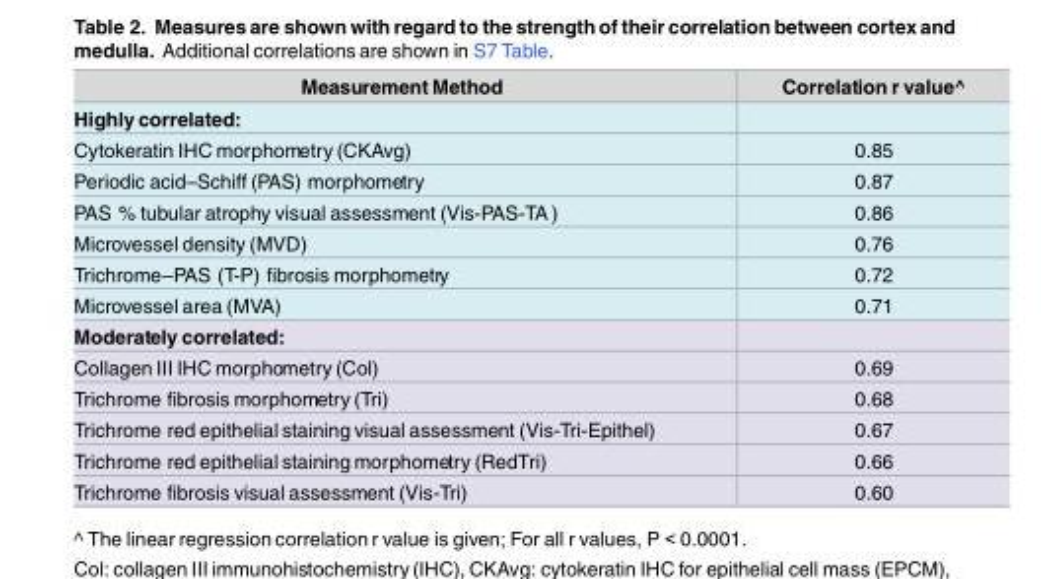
<table><thead><tr><td>Measurement Method</td><td>Correlation r value^</td></tr></thead><tbody><tr><td colspan="2">Highly correlated:</td></tr><tr><td>Cytokeratin IHC morphometry (CKAvg)</td><td>0.85</td></tr><tr><td>Periodic acid–Schiff (PAS) morphometry</td><td>0.87</td></tr><tr><td>PAS % tubular atrophy visual assessment (Vis-PAS-TA )</td><td>0.86</td></tr><tr><td>Microvessel density (MVD)</td><td>0.76</td></tr><tr><td>Trichrome–PAS (T-P) fibrosis morphometry</td><td>0.72</td></tr><tr><td>Microvessel area (MVA)</td><td>0.71</td></tr><tr><td colspan="2">Moderately correlated:</td></tr><tr><td>Collagen III IHC morphometry (Col)</td><td>0.69</td></tr><tr><td>Trichrome fibrosis morphometry (Tri)</td><td>0.68</td></tr><tr><td>Trichrome red epithelial staining visual assessment (Vis-Tri-Epithel)</td><td>0.67</td></tr><tr><td>Trichrome red epithelial staining morphometry (RedTri)</td><td>0.66</td></tr><tr><td>Trichrome fibrosis visual assessment (Vis-Tri)</td><td>0.60</td></tr></tbody></table>